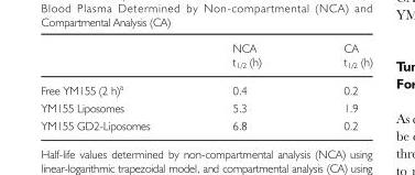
<table><thead><tr><td></td><td>NCA t<sub>1/2</sub> (h)</td><td>CA t<sub>1/2</sub> (h)</td></tr></thead><tbody><tr><td>Free YM155 (2 h)<sup>a</sup></td><td>0.4</td><td>0.2</td></tr><tr><td>YM155 Liposomes</td><td>5.3</td><td>1.9</td></tr><tr><td>YM155 GD2-Liposomes</td><td>6.8</td><td>0.2</td></tr></tbody></table>